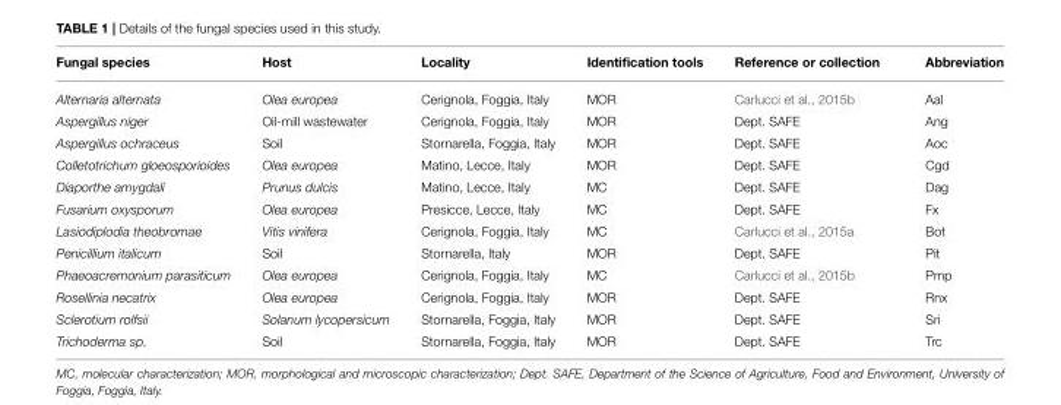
<table><thead><tr><td>Fungal species</td><td>Host</td><td>Locality</td><td>Identification tools</td><td>Reference or collection</td><td>Abbreviation</td></tr></thead><tbody><tr><td>Alternaria alternata</td><td>Olea europea</td><td>Cerignola, Foggia, Italy</td><td>MOR</td><td>Carlucci et al., 2015b</td><td>Aal</td></tr><tr><td>Aspergillus niger</td><td>Oil-mill wastewater</td><td>Cerignola, Foggia, Italy</td><td>MOR</td><td>Dept. SAFE</td><td>Ang</td></tr><tr><td>Aspergillus ochraceus</td><td>Soil</td><td>Stornarella, Foggia, Italy</td><td>MOR</td><td>Dept. SAFE</td><td>Aoc</td></tr><tr><td>Colletotrichum gloeosporioides</td><td>Olea europea</td><td>Matino, Lecce, Italy</td><td>MOR</td><td>Dept. SAFE</td><td>Cgd</td></tr><tr><td>Diaporthe amygdali</td><td>Prunus dulcis</td><td>Matino, Lecce, Italy</td><td>MC</td><td>Dept. SAFE</td><td>Dag</td></tr><tr><td>Fusarium oxysporum</td><td>Olea europea</td><td>Presicce, Lecce, Italy</td><td>MC</td><td>Dept. SAFE</td><td>Fx</td></tr><tr><td>Lasiodiplodia theobromae</td><td>Vitis vinifera</td><td>Cerignola, Foggia, Italy</td><td>MC</td><td>Carlucci et al., 2015a</td><td>Bot</td></tr><tr><td>Penicillium italicum</td><td>Soil</td><td>Stornarella, Italy</td><td>MOR</td><td>Dept. SAFE</td><td>Pit</td></tr><tr><td>Phaeoacremonium parasiticum</td><td>Olea europea</td><td>Cerignola, Foggia, Italy</td><td>MC</td><td>Carlucci et al., 2015b</td><td>Pmp</td></tr><tr><td>Rosellinia necatrix</td><td>Olea europea</td><td>Cerignola, Foggia, Italy</td><td>MOR</td><td>Dept. SAFE</td><td>Rnx</td></tr><tr><td>Sclerotium rolfsii</td><td>Solanum lycopersicum</td><td>Stornarella, Foggia, Italy</td><td>MOR</td><td>Dept. SAFE</td><td>Sri</td></tr><tr><td>Trichoderma sp.</td><td>Soil</td><td>Stornarella, Foggia, Italy</td><td>MOR</td><td>Dept. SAFE</td><td>Trc</td></tr></tbody></table>